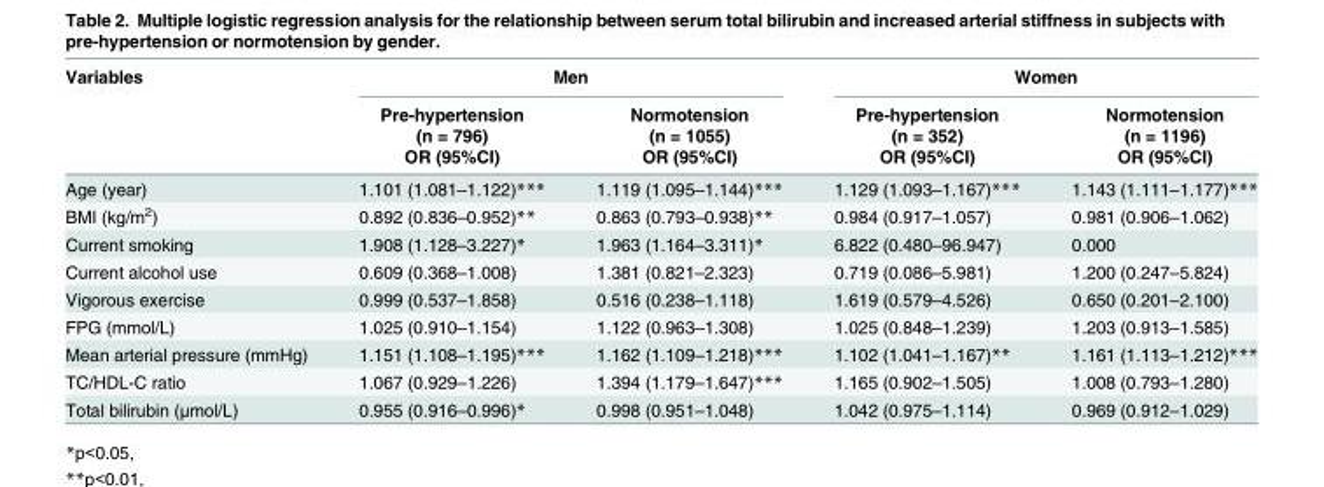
<table><thead><tr><td rowspan="4">Variables</td><td colspan="2">Men</td><td colspan="2">Women</td></tr><tr><td rowspan="3">Pre-hypertension (n = 796) OR (95%CI)</td><td rowspan="3">Normotension (n = 1055) OR (95%CI)</td><td rowspan="3">Pre-hypertension (n = 352) OR (95%CI)</td><td rowspan="3">Normotension (n = 1196) OR (95%CI)</td></tr><tr></tr><tr></tr></thead><tbody><tr><td>Age (year)</td><td>1.101 (1.081–1.122)***</td><td>1.119 (1.095–1.144)***</td><td>1.129 (1.093–1.167)***</td><td>1.143 (1.111–1.177)***</td></tr><tr><td>BMI (kg/m<sup>2</sup>)</td><td>0.892 (0.836–0.952)**</td><td>0.863 (0.793–0.938)**</td><td>0.984 (0.917–1.057)</td><td>0.981 (0.906–1.062)</td></tr><tr><td>Current smoking</td><td>1.908 (1.128–3.227)*</td><td>1.963 (1.164–3.311)*</td><td>6.822 (0.480–96.947)</td><td>0.000</td></tr><tr><td>Current alcohol use</td><td>0.609 (0.368–1.008)</td><td>1.381 (0.821–2.323)</td><td>0.719 (0.086–5.981)</td><td>1.200 (0.247–5.824)</td></tr><tr><td>Vigorous exercise</td><td>0.999 (0.537–1.858)</td><td>0.516 (0.238–1.118)</td><td>1.619 (0.579–4.526)</td><td>0.650 (0.201–2.100)</td></tr><tr><td>FPG (mmol/L)</td><td>1.025 (0.910–1.154)</td><td>1.122 (0.963–1.308)</td><td>1.025 (0.848–1.239)</td><td>1.203 (0.913–1.585)</td></tr><tr><td>Mean arterial pressure (mmHg)</td><td>1.151 (1.108–1.195)***</td><td>1.162 (1.109–1.218)***</td><td>1.102 (1.041–1.167)**</td><td>1.161 (1.113–1.212)***</td></tr><tr><td>TC/HDL-C ratio</td><td>1.067 (0.929–1.226)</td><td>1.394 (1.179–1.647)***</td><td>1.165 (0.902–1.505)</td><td>1.008 (0.793–1.280)</td></tr><tr><td>Total bilirubin (μmol/L)</td><td>0.955 (0.916–0.996)*</td><td>0.998 (0.951–1.048)</td><td>1.042 (0.975–1.114)</td><td>0.969 (0.912–1.029)</td></tr></tbody></table>